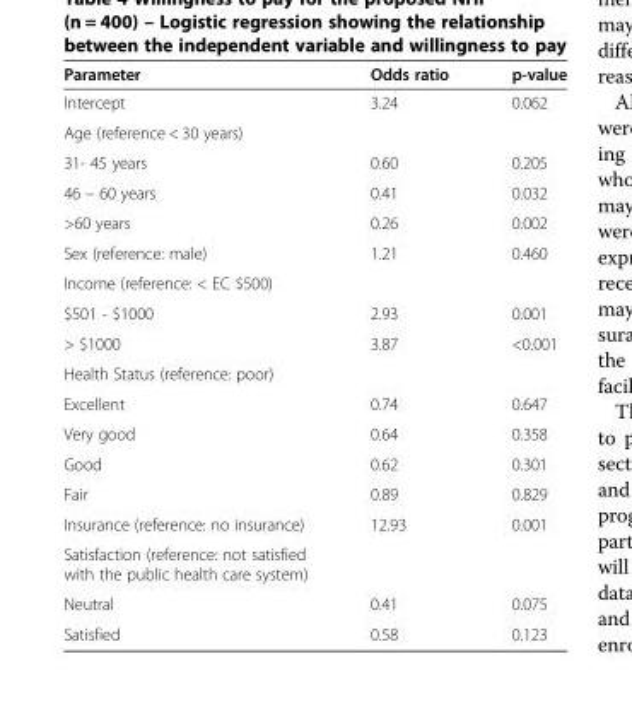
<table><thead><tr><td>Parameter</td><td>Odds ratio</td><td>p-value</td></tr></thead><tbody><tr><td>Intercept</td><td>3.24</td><td>0.062</td></tr><tr><td colspan="3">Age (reference &lt; 30 years)</td></tr><tr><td>31- 45 years</td><td>0.60</td><td>0.205</td></tr><tr><td>46 – 60 years</td><td>0.41</td><td>0.032</td></tr><tr><td>&gt;60 years</td><td>0.26</td><td>0.002</td></tr><tr><td>Sex (reference: male)</td><td>1.21</td><td>0.460</td></tr><tr><td colspan="3">Income (reference: &lt; EC $500)</td></tr><tr><td>$501 - $1000</td><td>2.93</td><td>0.001</td></tr><tr><td>&gt; $1000</td><td>3.87</td><td>&lt;0.001</td></tr><tr><td colspan="3">Health Status (reference: poor)</td></tr><tr><td>Excellent</td><td>0.74</td><td>0.647</td></tr><tr><td>Very good</td><td>0.64</td><td>0.358</td></tr><tr><td>Good</td><td>0.62</td><td>0.301</td></tr><tr><td>Fair</td><td>0.89</td><td>0.829</td></tr><tr><td>Insurance (reference: no insurance)</td><td>12.93</td><td>0.001</td></tr><tr><td colspan="3">Satisfaction (reference: not satisfied with the public health care system)</td></tr><tr><td>Neutral</td><td>0.41</td><td>0.075</td></tr><tr><td>Satisfied</td><td>0.58</td><td>0.123</td></tr></tbody></table>